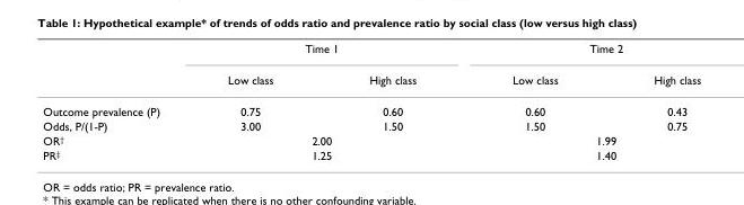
<table><thead><tr><td rowspan="2"></td><td colspan="2">Time 1</td><td colspan="2">Time 2</td></tr><tr><td>Low class</td><td>High class</td><td>Low class</td><td>High class</td></tr></thead><tbody><tr><td>Outcome prevalence (P)</td><td>0.75</td><td>0.60</td><td>0.60</td><td>0.43</td></tr><tr><td>Odds, P/(1-P)</td><td>3.00</td><td>1.50</td><td>1.50</td><td>0.75</td></tr><tr><td>OR<sup>†</sup></td><td colspan="2">2.00</td><td colspan="2">1.99</td></tr><tr><td>PR<sup>‡</sup></td><td colspan="2">1.25</td><td colspan="2">1.40</td></tr></tbody></table>